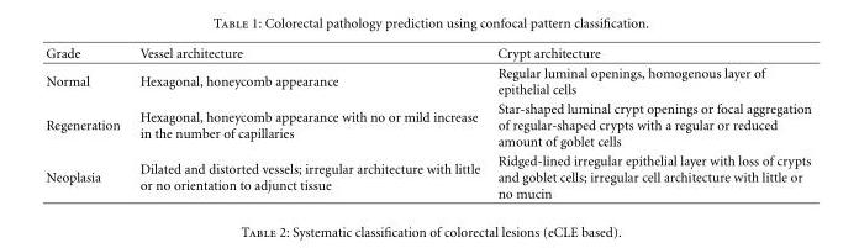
<table><thead><tr><td>Grade</td><td>Vessel architecture</td><td>Crypt architecture</td></tr></thead><tbody><tr><td>Normal</td><td>Hexagonal, honeycomb appearance</td><td>Regular luminal openings, homogenous layer of epithelial cells</td></tr><tr><td>Regeneration</td><td>Hexagonal, honeycomb appearance with no or mild increase in the number of capillaries</td><td>Star-shaped luminal crypt openings or focal aggregation of regular-shaped crypts with a regular or reduced amount of goblet cells</td></tr><tr><td>Neoplasia</td><td>Dilated and distorted vessels; irregular architecture with little or no orientation to adjunct tissue</td><td>Ridged-lined irregular epithelial layer with loss of crypts and goblet cells; irregular cell architecture with little or no mucin</td></tr></tbody></table>